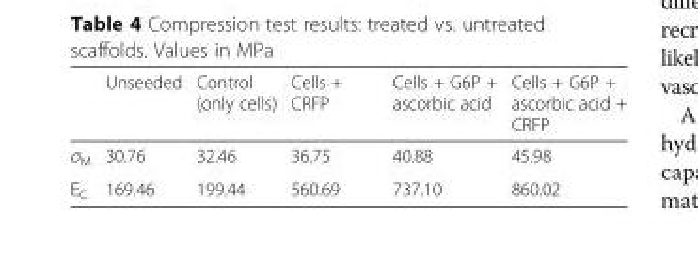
<table><thead><tr><td></td><td>Unseeded</td><td>Control (only cells)</td><td>Cells + CRFP</td><td>Cells + G6P + ascorbic acid</td><td>Cells + G6P + ascorbic acid + CRFP</td></tr></thead><tbody><tr><td>σ<sub>M</sub></td><td>30.76</td><td>32.46</td><td>36.75</td><td>40.88</td><td>45.98</td></tr><tr><td>E<sub>C</sub></td><td>169.46</td><td>199.44</td><td>560.69</td><td>737.10</td><td>860.02</td></tr></tbody></table>